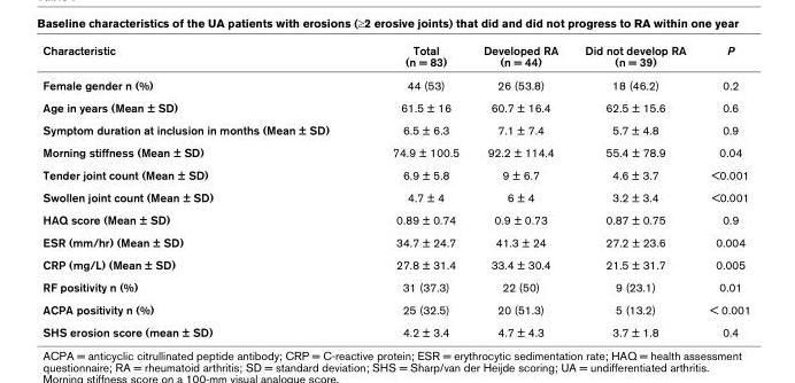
<table><thead><tr><td>Characteristic</td><td>Total (n = 83)</td><td>Developed RA (n = 44)</td><td>Did not develop RA (n = 39)</td><td>P</td></tr></thead><tbody><tr><td>Female gender n (%)</td><td>44 (53)</td><td>26 (53.8)</td><td>18 (46.2)</td><td>0.2</td></tr><tr><td>Age in years (Mean ± SD)</td><td>61.5 ± 16</td><td>60.7 ± 16.4</td><td>62.5 ± 15.6</td><td>0.6</td></tr><tr><td>Symptom duration at inclusion in months (Mean ± SD)</td><td>6.5 ± 6.3</td><td>7.1 ± 7.4</td><td>5.7 ± 4.8</td><td>0.9</td></tr><tr><td>Morning stiffness (Mean ± SD)</td><td>74.9 ± 100.5</td><td>92.2 ± 114.4</td><td>55.4 ± 78.9</td><td>0.04</td></tr><tr><td>Tender joint count (Mean ± SD)</td><td>6.9 ± 5.8</td><td>9 ± 6.7</td><td>4.6 ± 3.7</td><td>&lt;0.001</td></tr><tr><td>Swollen joint count (Mean ± SD)</td><td>4.7 ± 4</td><td>6 ± 4</td><td>3.2 ± 3.4</td><td>&lt;0.001</td></tr><tr><td>HAQ score (Mean ± SD)</td><td>0.89 ± 0.74</td><td>0.9 ± 0.73</td><td>0.87 ± 0.75</td><td>0.9</td></tr><tr><td>ESR (mm/hr) (Mean ± SD)</td><td>34.7 ± 24.7</td><td>41.3 ± 24</td><td>27.2 ± 23.6</td><td>0.004</td></tr><tr><td>CRP (mg/L) (Mean ± SD)</td><td>27.8 ± 31.4</td><td>33.4 ± 30.4</td><td>21.5 ± 31.7</td><td>0.005</td></tr><tr><td>RF positivity n (%)</td><td>31 (37.3)</td><td>22 (50)</td><td>9 (23.1)</td><td>0.01</td></tr><tr><td>ACPA positivity n (%)</td><td>25 (32.5)</td><td>20 (51.3)</td><td>5 (13.2)</td><td>&lt; 0.001</td></tr><tr><td>SHS erosion score (mean ± SD)</td><td>4.2 ± 3.4</td><td>4.7 ± 4.3</td><td>3.7 ± 1.8</td><td>0.4</td></tr></tbody></table>